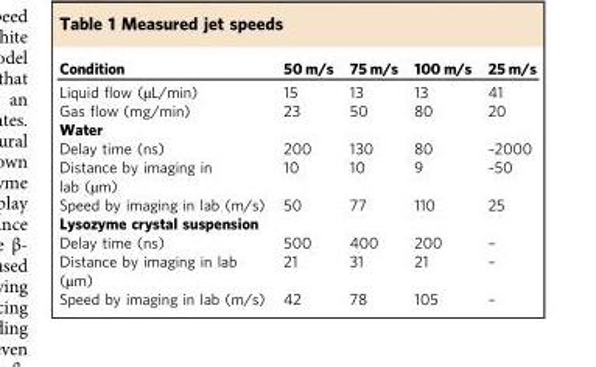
<table><thead><tr><td>Condition</td><td>50 m/s</td><td>75 m/s</td><td>100 m/s</td><td>25 m/s</td></tr></thead><tbody><tr><td>Liquid flow (µL/min)</td><td>15</td><td>13</td><td>13</td><td>41</td></tr><tr><td>Gas flow (mg/min)</td><td>23</td><td>50</td><td>80</td><td>20</td></tr><tr><td colspan="5">Water</td></tr><tr><td>Delay time (ns)</td><td>200</td><td>130</td><td>80</td><td>~2000</td></tr><tr><td>Distance by imaging in lab (µm)</td><td>10</td><td>10</td><td>9</td><td>~50</td></tr><tr><td>Speed by imaging in lab (m/s)</td><td>50</td><td>77</td><td>110</td><td>25</td></tr><tr><td colspan="5">Lysozyme crystal suspension</td></tr><tr><td>Delay time (ns)</td><td>500</td><td>400</td><td>200</td><td>–</td></tr><tr><td>Distance by imaging in lab (µm)</td><td>21</td><td>31</td><td>21</td><td>–</td></tr><tr><td>Speed by imaging in lab (m/s)</td><td>42</td><td>78</td><td>105</td><td>–</td></tr></tbody></table>